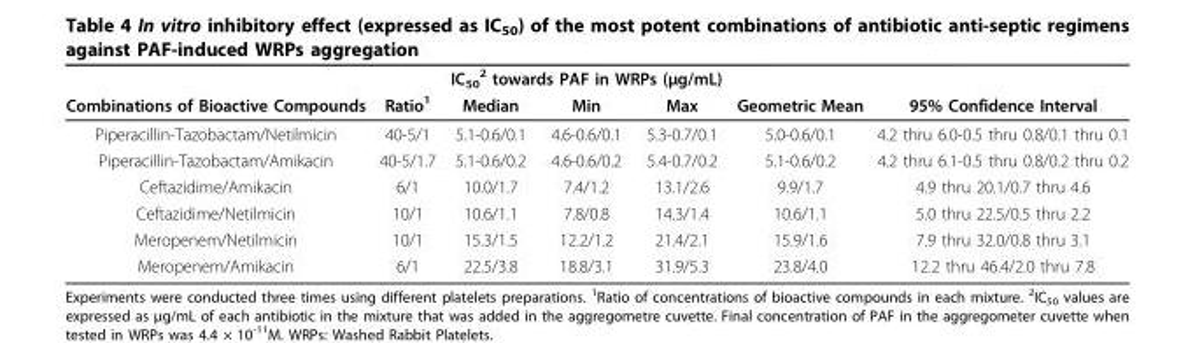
<table><thead><tr><td rowspan="2">Combinations of Bioactive Compounds</td><td rowspan="2">Ratio<sup>1</sup></td><td colspan="3">IC<sub>50</sub> <sup>2</sup> towards PAF in WRPs (μg/mL)</td><td rowspan="2">Geometric Mean</td><td rowspan="2">95% Confidence Interval</td></tr><tr><td>Median</td><td>Min</td><td>Max</td></tr></thead><tbody><tr><td>Piperacillin-Tazobactam/Netilmicin</td><td>40-5/1</td><td>5.1-0.6/0.1</td><td>4.6-0.6/0.1</td><td>5.3-0.7/0.1</td><td>5.0-0.6/0.1</td><td>4.2 thru 6.0-0.5 thru 0.8/0.1 thru 0.1</td></tr><tr><td>Piperacillin-Tazobactam/Amikacin</td><td>40-5/1.7</td><td>5.1-0.6/0.2</td><td>4.6-0.6/0.2</td><td>5.4-0.7/0.2</td><td>5.1-0.6/0.2</td><td>4.2 thru 6.1-0.5 thru 0.8/0.2 thru 0.2</td></tr><tr><td>Ceftazidime/Amikacin</td><td>6/1</td><td>10.0/1.7</td><td>7.4/1.2</td><td>13.1/2.6</td><td>9.9/1.7</td><td>4.9 thru 20.1/0.7 thru 4.6</td></tr><tr><td>Ceftazidime/Netilmicin</td><td>10/1</td><td>10.6/1.1</td><td>7.8/0.8</td><td>14.3/1.4</td><td>10.6/1.1</td><td>5.0 thru 22.5/0.5 thru 2.2</td></tr><tr><td>Meropenem/Netilmicin</td><td>10/1</td><td>15.3/1.5</td><td>12.2/1.2</td><td>21.4/2.1</td><td>15.9/1.6</td><td>7.9 thru 32.0/0.8 thru 3.1</td></tr><tr><td>Meropenem/Amikacin</td><td>6/1</td><td>22.5/3.8</td><td>18.8/3.1</td><td>31.9/5.3</td><td>23.8/4.0</td><td>12.2 thru 46.4/2.0 thru 7.8</td></tr></tbody></table>